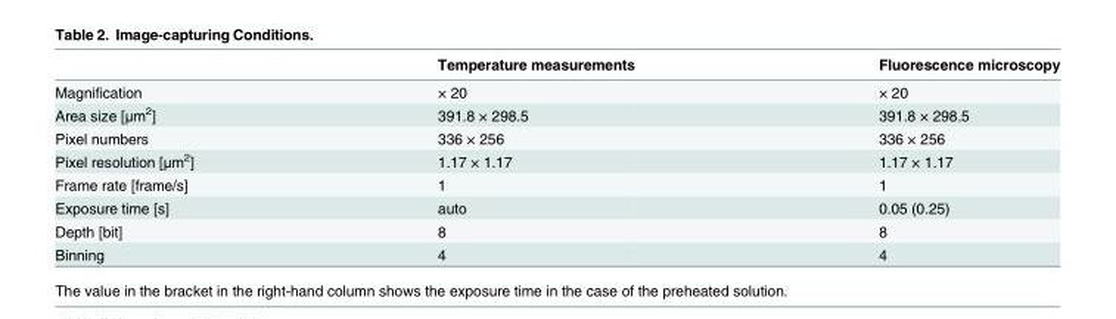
<table><thead><tr><td></td><td>Temperature measurements</td><td>Fluorescence microscopy</td></tr></thead><tbody><tr><td>Magnification</td><td>× 20</td><td>× 20</td></tr><tr><td>Area size [μm<sup>2</sup>]</td><td>391.8 × 298.5</td><td>391.8 × 298.5</td></tr><tr><td>Pixel numbers</td><td>336 × 256</td><td>336 × 256</td></tr><tr><td>Pixel resolution [μm<sup>2</sup>]</td><td>1.17 × 1.17</td><td>1.17 × 1.17</td></tr><tr><td>Frame rate [frame/s]</td><td>1</td><td>1</td></tr><tr><td>Exposure time [s]</td><td>auto</td><td>0.05 (0.25)</td></tr><tr><td>Depth [bit]</td><td>8</td><td>8</td></tr><tr><td>Binning</td><td>4</td><td>4</td></tr></tbody></table>